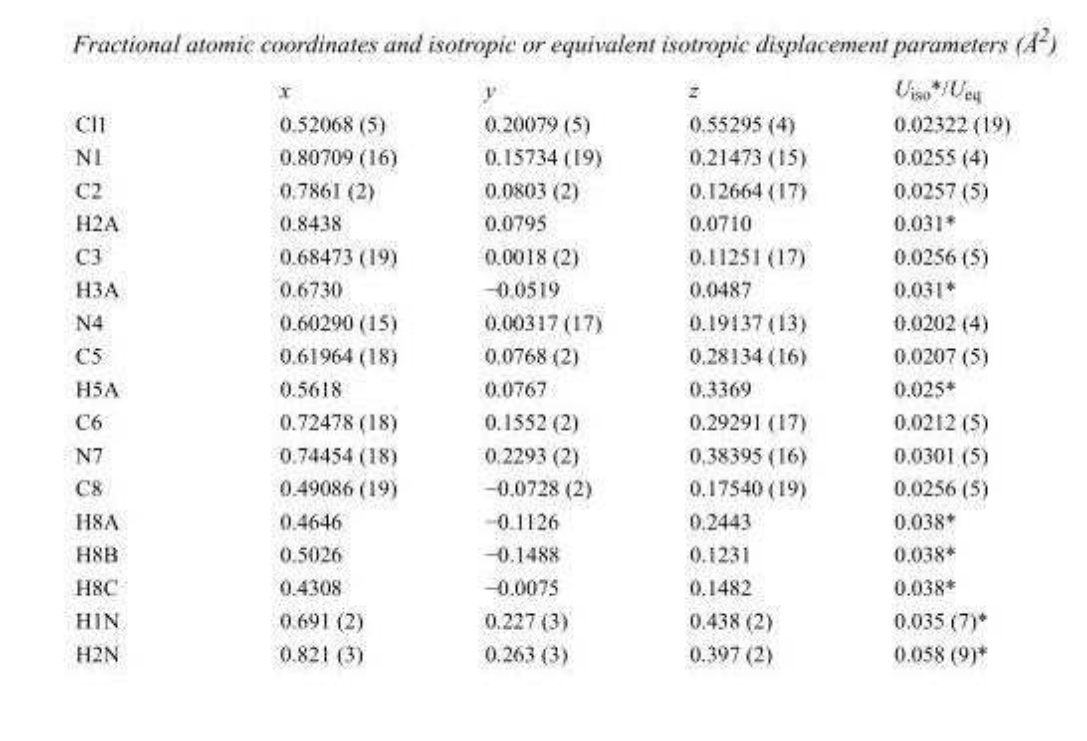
<table><thead><tr><td></td><td>x</td><td>y</td><td>z</td><td>U<sub>iso</sub>*/U<sub>eq</sub></td></tr></thead><tbody><tr><td>Cl1</td><td>0.52068 (5)</td><td>0.20079 (5)</td><td>0.55295 (4)</td><td>0.02322 (19)</td></tr><tr><td>N1</td><td>0.80709 (16)</td><td>0.15734 (19)</td><td>0.21473 (15)</td><td>0.0255 (4)</td></tr><tr><td>C2</td><td>0.7861 (2)</td><td>0.0803 (2)</td><td>0.12664 (17)</td><td>0.0257 (5)</td></tr><tr><td>H2A</td><td>0.8438</td><td>0.0795</td><td>0.0710</td><td>0.031*</td></tr><tr><td>C3</td><td>0.68473 (19)</td><td>0.0018 (2)</td><td>0.11251 (17)</td><td>0.0256 (5)</td></tr><tr><td>H3A</td><td>0.6730</td><td>−0.0519</td><td>0.0487</td><td>0.031*</td></tr><tr><td>N4</td><td>0.60290 (15)</td><td>0.00317 (17)</td><td>0.19137 (13)</td><td>0.0202 (4)</td></tr><tr><td>C5</td><td>0.61964 (18)</td><td>0.0768 (2)</td><td>0.28134 (16)</td><td>0.0207 (5)</td></tr><tr><td>H5A</td><td>0.5618</td><td>0.0767</td><td>0.3369</td><td>0.025*</td></tr><tr><td>C6</td><td>0.72478 (18)</td><td>0.1552 (2)</td><td>0.29291 (17)</td><td>0.0212 (5)</td></tr><tr><td>N7</td><td>0.74454 (18)</td><td>0.2293 (2)</td><td>0.38395 (16)</td><td>0.0301 (5)</td></tr><tr><td>C8</td><td>0.49086 (19)</td><td>−0.0728 (2)</td><td>0.17540 (19)</td><td>0.0256 (5)</td></tr><tr><td>H8A</td><td>0.4646</td><td>−0.1126</td><td>0.2443</td><td>0.038*</td></tr><tr><td>H8B</td><td>0.5026</td><td>−0.1488</td><td>0.1231</td><td>0.038*</td></tr><tr><td>H8C</td><td>0.4308</td><td>−0.0075</td><td>0.1482</td><td>0.038*</td></tr><tr><td>H1N</td><td>0.691 (2)</td><td>0.227 (3)</td><td>0.438 (2)</td><td>0.035 (7)*</td></tr><tr><td>H2N</td><td>0.821 (3)</td><td>0.263 (3)</td><td>0.397 (2)</td><td>0.058 (9)*</td></tr></tbody></table>